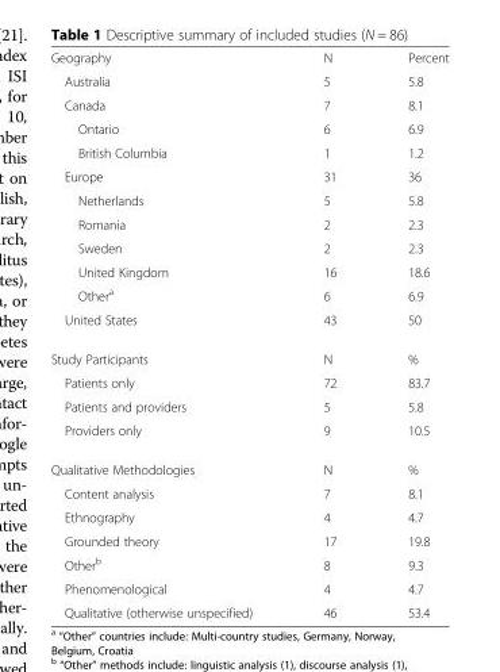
<table><tbody><tr><td>Geography</td><td>N</td><td>Percent</td></tr><tr><td>Australia</td><td>5</td><td>5.8</td></tr><tr><td>Canada</td><td>7</td><td>8.1</td></tr><tr><td>Ontario</td><td>6</td><td>6.9</td></tr><tr><td>British Columbia</td><td>1</td><td>1.2</td></tr><tr><td>Europe</td><td>31</td><td>36</td></tr><tr><td>Netherlands</td><td>5</td><td>5.8</td></tr><tr><td>Romania</td><td>2</td><td>2.3</td></tr><tr><td>Sweden</td><td>2</td><td>2.3</td></tr><tr><td>United Kingdom</td><td>16</td><td>18.6</td></tr><tr><td>Other<sup>a</sup></td><td>6</td><td>6.9</td></tr><tr><td>United States</td><td>43</td><td>50</td></tr><tr><td>Study Participants</td><td>N</td><td>%</td></tr><tr><td>Patients only</td><td>72</td><td>83.7</td></tr><tr><td>Patients and providers</td><td>5</td><td>5.8</td></tr><tr><td>Providers only</td><td>9</td><td>10.5</td></tr><tr><td>Qualitative Methodologies</td><td>N</td><td>%</td></tr><tr><td>Content analysis</td><td>7</td><td>8.1</td></tr><tr><td>Ethnography</td><td>4</td><td>4.7</td></tr><tr><td>Grounded theory</td><td>17</td><td>19.8</td></tr><tr><td>Other<sup>b</sup></td><td>8</td><td>9.3</td></tr><tr><td>Phenomenological</td><td>4</td><td>4.7</td></tr><tr><td>Qualitative (otherwise unspecified)</td><td>46</td><td>53.4</td></tr></tbody></table>